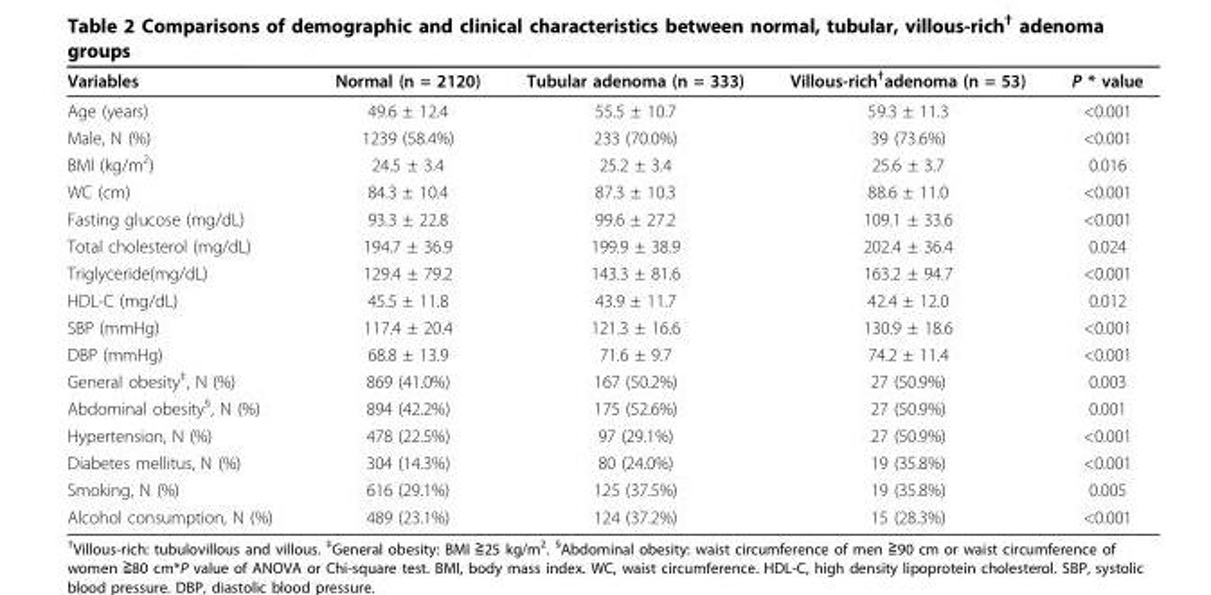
<table><thead><tr><td>Variables</td><td>Normal (n = 2120)</td><td>Tubular adenoma (n = 333)</td><td>Villous-rich<sup>†</sup>adenoma (n = 53)</td><td>P * value</td></tr></thead><tbody><tr><td>Age (years)</td><td>49.6 ± 12.4</td><td>55.5 ± 10.7</td><td>59.3 ± 11.3</td><td>&lt;0.001</td></tr><tr><td>Male, N (%)</td><td>1239 (58.4%)</td><td>233 (70.0%)</td><td>39 (73.6%)</td><td>&lt;0.001</td></tr><tr><td>BMI (kg/m<sup>2</sup>)</td><td>24.5 ± 3.4</td><td>25.2 ± 3.4</td><td>25.6 ± 3.7</td><td>0.016</td></tr><tr><td>WC (cm)</td><td>84.3 ± 10.4</td><td>87.3 ± 10.3</td><td>88.6 ± 11.0</td><td>&lt;0.001</td></tr><tr><td>Fasting glucose (mg/dL)</td><td>93.3 ± 22.8</td><td>99.6 ± 27.2</td><td>109.1 ± 33.6</td><td>&lt;0.001</td></tr><tr><td>Total cholesterol (mg/dL)</td><td>194.7 ± 36.9</td><td>199.9 ± 38.9</td><td>202.4 ± 36.4</td><td>0.024</td></tr><tr><td>Triglyceride(mg/dL)</td><td>129.4 ± 79.2</td><td>143.3 ± 81.6</td><td>163.2 ± 94.7</td><td>&lt;0.001</td></tr><tr><td>HDL-C (mg/dL)</td><td>45.5 ± 11.8</td><td>43.9 ± 11.7</td><td>42.4 ± 12.0</td><td>0.012</td></tr><tr><td>SBP (mmHg)</td><td>117.4 ± 20.4</td><td>121.3 ± 16.6</td><td>130.9 ± 18.6</td><td>&lt;0.001</td></tr><tr><td>DBP (mmHg)</td><td>68.8 ± 13.9</td><td>71.6 ± 9.7</td><td>74.2 ± 11.4</td><td>&lt;0.001</td></tr><tr><td>General obesity<sup>‡</sup>, N (%)</td><td>869 (41.0%)</td><td>167 (50.2%)</td><td>27 (50.9%)</td><td>0.003</td></tr><tr><td>Abdominal obesity<sup>§</sup>, N (%)</td><td>894 (42.2%)</td><td>175 (52.6%)</td><td>27 (50.9%)</td><td>0.001</td></tr><tr><td>Hypertension, N (%)</td><td>478 (22.5%)</td><td>97 (29.1%)</td><td>27 (50.9%)</td><td>&lt;0.001</td></tr><tr><td>Diabetes mellitus, N (%)</td><td>304 (14.3%)</td><td>80 (24.0%)</td><td>19 (35.8%)</td><td>&lt;0.001</td></tr><tr><td>Smoking, N (%)</td><td>616 (29.1%)</td><td>125 (37.5%)</td><td>19 (35.8%)</td><td>0.005</td></tr><tr><td>Alcohol consumption, N (%)</td><td>489 (23.1%)</td><td>124 (37.2%)</td><td>15 (28.3%)</td><td>&lt;0.001</td></tr></tbody></table>